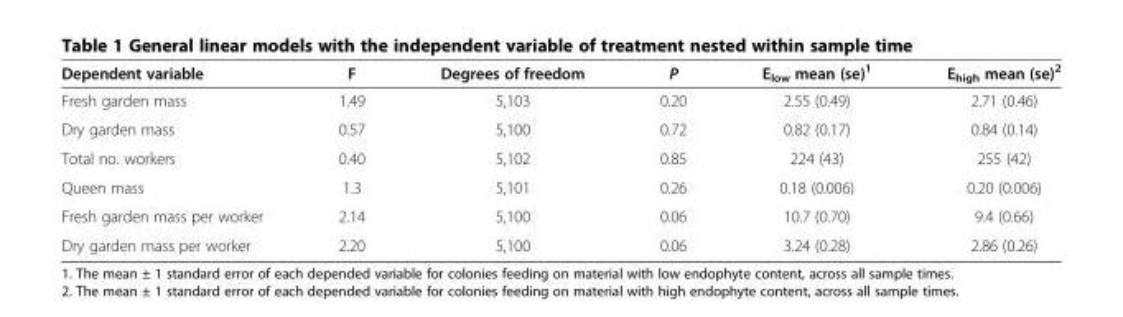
<table><thead><tr><td>Dependent variable</td><td>F</td><td>Degrees of freedom</td><td>P</td><td>E<sub>low</sub> mean (se)<sup>1</sup></td><td>E<sub>high</sub> mean (se)<sup>2</sup></td></tr></thead><tbody><tr><td>Fresh garden mass</td><td>1.49</td><td>5,103</td><td>0.20</td><td>2.55 (0.49)</td><td>2.71 (0.46)</td></tr><tr><td>Dry garden mass</td><td>0.57</td><td>5,100</td><td>0.72</td><td>0.82 (0.17)</td><td>0.84 (0.14)</td></tr><tr><td>Total no. workers</td><td>0.40</td><td>5,102</td><td>0.85</td><td>224 (43)</td><td>255 (42)</td></tr><tr><td>Queen mass</td><td>1.3</td><td>5,101</td><td>0.26</td><td>0.18 (0.006)</td><td>0.20 (0.006)</td></tr><tr><td>Fresh garden mass per worker</td><td>2.14</td><td>5,100</td><td>0.06</td><td>10.7 (0.70)</td><td>9.4 (0.66)</td></tr><tr><td>Dry garden mass per worker</td><td>2.20</td><td>5,100</td><td>0.06</td><td>3.24 (0.28)</td><td>2.86 (0.26)</td></tr></tbody></table>